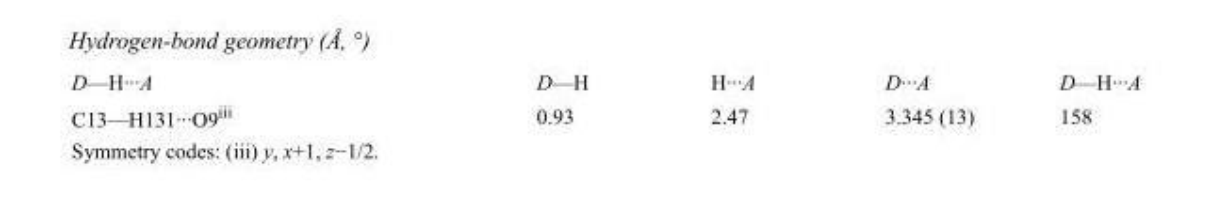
<table><tbody><tr><td>D—H···A</td><td>D—H</td><td>H···A</td><td>D···A</td><td>D—H···A</td></tr><tr><td>C13—H131···O9<sup>iii</sup></td><td>0.93</td><td>2.47</td><td>3.345 (13)</td><td>158</td></tr></tbody></table>